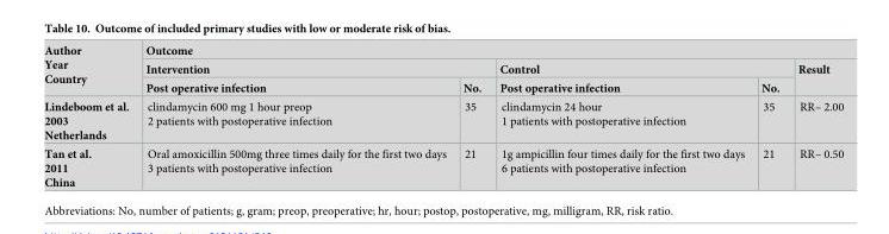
<table><thead><tr><td rowspan="3">Author Year Country</td><td colspan="5">Outcome</td></tr><tr><td colspan="2">Intervention</td><td colspan="2">Control</td><td rowspan="2">Result</td></tr><tr><td>Post operative infection</td><td>No.</td><td>Post operative infection</td><td>No.</td></tr></thead><tbody><tr><td>Lindeboom et al. 2003 Netherlands</td><td>clindamycin 600 mg 1 hour preop 2 patients with postoperative infection</td><td>35</td><td>clindamycin 24 hour 1 patients with postoperative infection</td><td>35</td><td>RR– 2.00</td></tr><tr><td>Tan et al. 2011 China</td><td>Oral amoxicillin 500mg three times daily for the first two days 3 patients with postoperative infection</td><td>21</td><td>1g ampicillin four times daily for the first two days 6 patients with postoperative infection</td><td>21</td><td>RR– 0.50</td></tr></tbody></table>